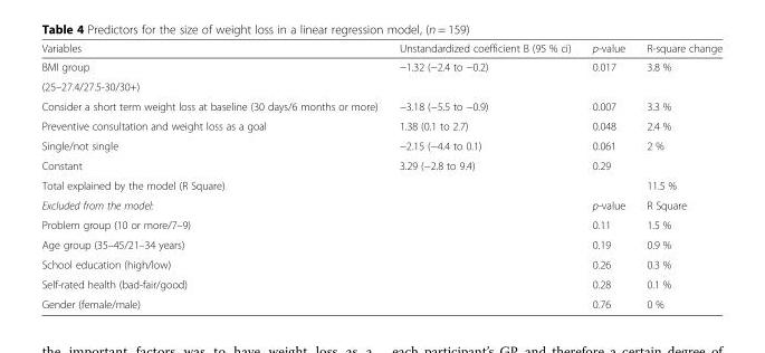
<table><thead><tr><td>Variables</td><td>Unstandardized coefficient B (95 % ci)</td><td>p-value</td><td>R-square change</td></tr></thead><tbody><tr><td>BMI group</td><td>−1.32 (−2.4 to −0.2)</td><td>0.017</td><td>3.8 %</td></tr><tr><td colspan="4">(25–27.4/27.5-30/30+)</td></tr><tr><td>Consider a short term weight loss at baseline (30 days/6 months or more)</td><td>−3.18 (−5.5 to −0.9)</td><td>0.007</td><td>3.3 %</td></tr><tr><td>Preventive consultation and weight loss as a goal</td><td>1.38 (0.1 to 2.7)</td><td>0.048</td><td>2.4 %</td></tr><tr><td>Single/not single</td><td>−2.15 (−4.4 to 0.1)</td><td>0.061</td><td>2 %</td></tr><tr><td>Constant</td><td>3.29 (−2.8 to 9.4)</td><td>0.29</td><td></td></tr><tr><td>Total explained by the model (R Square)</td><td></td><td></td><td>11.5 %</td></tr><tr><td>Excluded from the model:</td><td></td><td>p-value</td><td>R Square</td></tr><tr><td>Problem group (10 or more/7–9)</td><td></td><td>0.11</td><td>1.5 %</td></tr><tr><td>Age group (35–45/21–34 years)</td><td></td><td>0.19</td><td>0.9 %</td></tr><tr><td>School education (high/low)</td><td></td><td>0.26</td><td>0.3 %</td></tr><tr><td>Self-rated health (bad-fair/good)</td><td></td><td>0.28</td><td>0.1 %</td></tr><tr><td>Gender (female/male)</td><td></td><td>0.76</td><td>0 %</td></tr></tbody></table>